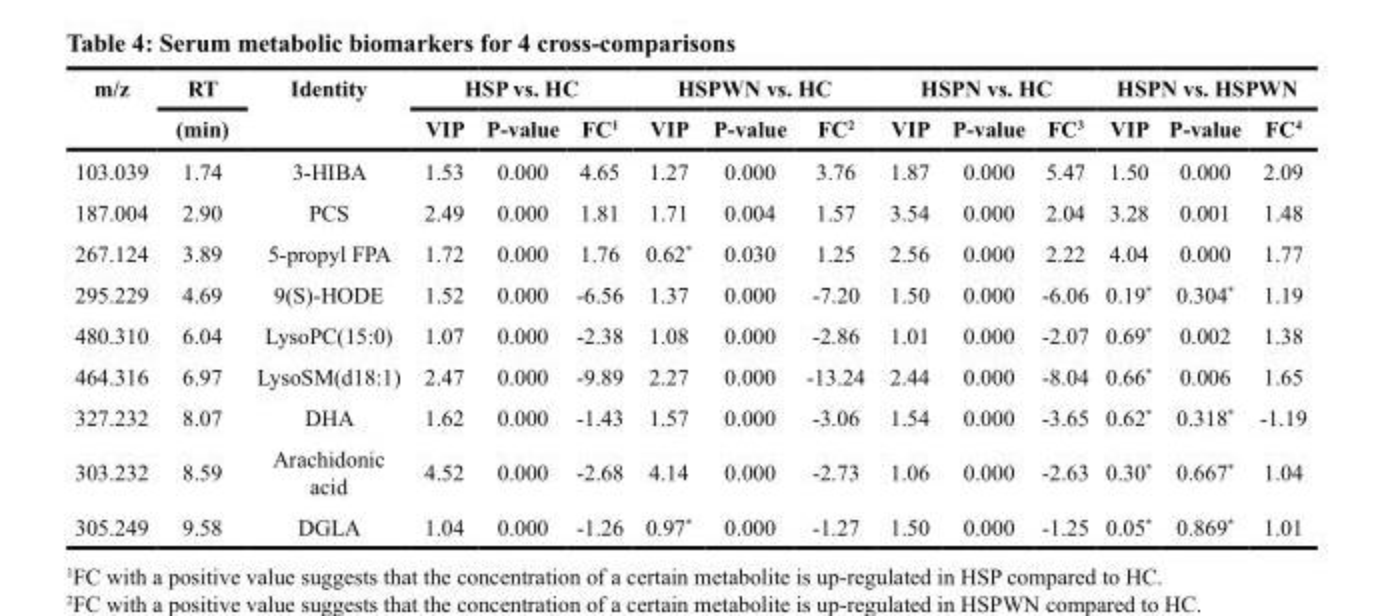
<table><thead><tr><td rowspan="2">m/z</td><td rowspan="2">RT (min)</td><td rowspan="2">Identity</td><td colspan="3">HSP vs. HC</td><td colspan="3">HSPWN vs. HC</td><td colspan="3">HSPN vs. HC</td><td colspan="3">HSPN vs. HSPWN</td></tr><tr><td>VIP</td><td>P-value</td><td>FC<sup>1</sup></td><td>VIP</td><td>P-value</td><td>FC<sup>2</sup></td><td>VIP</td><td>P-value</td><td>FC<sup>3</sup></td><td>VIP</td><td>P-value</td><td>FC<sup>4</sup></td></tr></thead><tbody><tr><td>103.039</td><td>1.74</td><td>3-HIBA</td><td>1.53</td><td>0.000</td><td>4.65</td><td>1.27</td><td>0.000</td><td>3.76</td><td>1.87</td><td>0.000</td><td>5.47</td><td>1.50</td><td>0.000</td><td>2.09</td></tr><tr><td>187.004</td><td>2.90</td><td>PCS</td><td>2.49</td><td>0.000</td><td>1.81</td><td>1.71</td><td>0.004</td><td>1.57</td><td>3.54</td><td>0.000</td><td>2.04</td><td>3.28</td><td>0.001</td><td>1.48</td></tr><tr><td>267.124</td><td>3.89</td><td>5-propyl FPA</td><td>1.72</td><td>0.000</td><td>1.76</td><td>0.62*</td><td>0.030</td><td>1.25</td><td>2.56</td><td>0.000</td><td>2.22</td><td>4.04</td><td>0.000</td><td>1.77</td></tr><tr><td>295.229</td><td>4.69</td><td>9(S)-HODE</td><td>1.52</td><td>0.000</td><td>-6.56</td><td>1.37</td><td>0.000</td><td>-7.20</td><td>1.50</td><td>0.000</td><td>-6.06</td><td>0.19*</td><td>0.304*</td><td>1.19</td></tr><tr><td>480.310</td><td>6.04</td><td>LysoPC(15:0)</td><td>1.07</td><td>0.000</td><td>-2.38</td><td>1.08</td><td>0.000</td><td>-2.86</td><td>1.01</td><td>0.000</td><td>-2.07</td><td>0.69*</td><td>0.002</td><td>1.38</td></tr><tr><td>464.316</td><td>6.97</td><td>LysoSM(d18:1)</td><td>2.47</td><td>0.000</td><td>-9.89</td><td>2.27</td><td>0.000</td><td>-13.24</td><td>2.44</td><td>0.000</td><td>-8.04</td><td>0.66*</td><td>0.006</td><td>1.65</td></tr><tr><td>327.232</td><td>8.07</td><td>DHA</td><td>1.62</td><td>0.000</td><td>-1.43</td><td>1.57</td><td>0.000</td><td>-3.06</td><td>1.54</td><td>0.000</td><td>-3.65</td><td>0.62*</td><td>0.318*</td><td>-1.19</td></tr><tr><td>303.232</td><td>8.59</td><td>Arachidonic acid</td><td>4.52</td><td>0.000</td><td>-2.68</td><td>4.14</td><td>0.000</td><td>-2.73</td><td>1.06</td><td>0.000</td><td>-2.63</td><td>0.30*</td><td>0.667*</td><td>1.04</td></tr><tr><td>305.249</td><td>9.58</td><td>DGLA</td><td>1.04</td><td>0.000</td><td>-1.26</td><td>0.97*</td><td>0.000</td><td>-1.27</td><td>1.50</td><td>0.000</td><td>-1.25</td><td>0.05*</td><td>0.869*</td><td>1.01</td></tr></tbody></table>